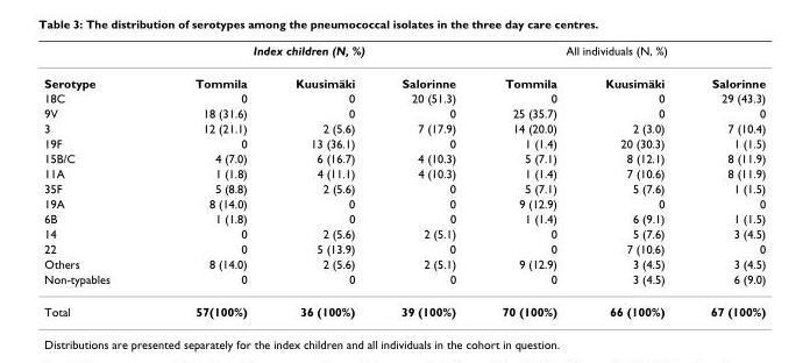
<table><thead><tr><td rowspan="2">Serotype</td><td colspan="3">Index children (N, %)</td><td colspan="3">All individuals (N, %)</td></tr><tr><td>Tommila</td><td>Kuusimäki</td><td>Salorinne</td><td>Tommila</td><td>Kuusimäki</td><td>Salorinne</td></tr></thead><tbody><tr><td>18C</td><td>0</td><td>0</td><td>20 (51.3)</td><td>0</td><td>0</td><td>29 (43.3)</td></tr><tr><td>9V</td><td>18 (31.6)</td><td>0</td><td>0</td><td>25 (35.7)</td><td>0</td><td>0</td></tr><tr><td>3</td><td>12 (21.1)</td><td>2 (5.6)</td><td>7 (17.9)</td><td>14 (20.0)</td><td>2 (3.0)</td><td>7 (10.4)</td></tr><tr><td>19F</td><td>0</td><td>13 (36.1)</td><td>0</td><td>1 (1.4)</td><td>20 (30.3)</td><td>1 (1.5)</td></tr><tr><td>15B/C</td><td>4 (7.0)</td><td>6 (16.7)</td><td>4 (10.3)</td><td>5 (7.1)</td><td>8 (12.1)</td><td>8 (11.9)</td></tr><tr><td>11A</td><td>1 (1.8)</td><td>4 (11.1)</td><td>4 (10.3)</td><td>1 (1.4)</td><td>7 (10.6)</td><td>8 (11.9)</td></tr><tr><td>35F</td><td>5 (8.8)</td><td>2 (5.6)</td><td>0</td><td>5 (7.1)</td><td>5 (7.6)</td><td>1 (1.5)</td></tr><tr><td>19A</td><td>8 (14.0)</td><td>0</td><td>0</td><td>9 (12.9)</td><td>0</td><td>0</td></tr><tr><td>6B</td><td>1 (1.8)</td><td>0</td><td>0</td><td>1 (1.4)</td><td>6 (9.1)</td><td>1 (1.5)</td></tr><tr><td>14</td><td>0</td><td>2 (5.6)</td><td>2 (5.1)</td><td>0</td><td>5 (7.6)</td><td>3 (4.5)</td></tr><tr><td>22</td><td>0</td><td>5 (13.9)</td><td>0</td><td>0</td><td>7 (10.6)</td><td>0</td></tr><tr><td>Others</td><td>8 (14.0)</td><td>2 (5.6)</td><td>2 (5.1)</td><td>9 (12.9)</td><td>3 (4.5)</td><td>3 (4.5)</td></tr><tr><td>Non-typables</td><td>0</td><td>0</td><td>0</td><td>0</td><td>3 (4.5)</td><td>6 (9.0)</td></tr><tr><td>Total</td><td>57(100%)</td><td>36 (100%)</td><td>39 (100%)</td><td>70 (100%)</td><td>66 (100%)</td><td>67 (100%)</td></tr></tbody></table>